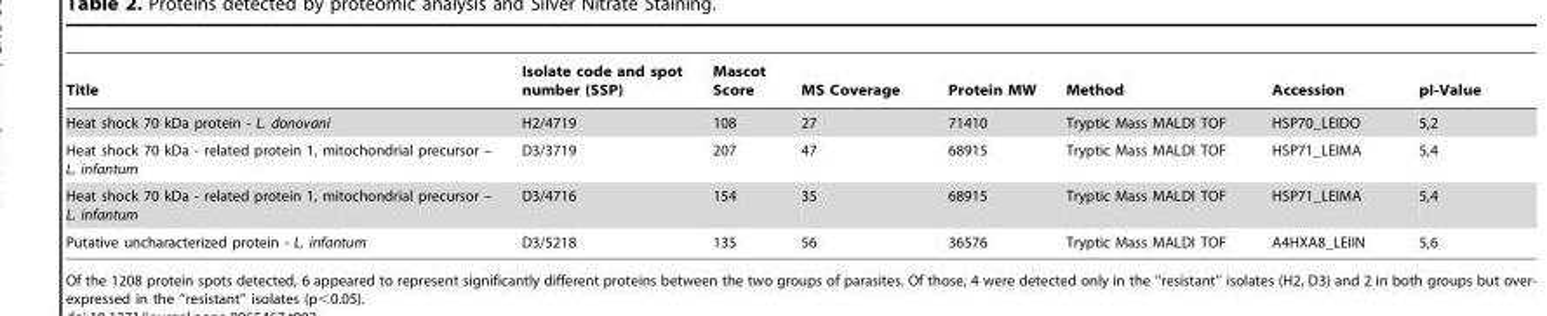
<table><thead><tr><td>Title</td><td>Isolate code and spot number (SSP)</td><td>Mascot Score</td><td>MS Coverage</td><td>Protein MW</td><td>Method</td><td>Accession</td><td>pI-Value</td></tr></thead><tbody><tr><td>Heat shock 70 kDa protein - L. donovani</td><td>H2/4719</td><td>108</td><td>27</td><td>71410</td><td>Tryptic Mass MALDI TOF</td><td>HSP70_LEIDO</td><td>5,2</td></tr><tr><td>Heat shock 70 kDa - related protein 1, mitochondrial precursor – L. infantum</td><td>D3/3719</td><td>207</td><td>47</td><td>68915</td><td>Tryptic Mass MALDI TOF</td><td>HSP71_LEIMA</td><td>5,4</td></tr><tr><td>Heat shock 70 kDa - related protein 1, mitochondrial precursor – L. infantum</td><td>D3/4716</td><td>154</td><td>35</td><td>68915</td><td>Tryptic Mass MALDI TOF</td><td>HSP71_LEIMA</td><td>5,4</td></tr><tr><td>Putative uncharacterized protein - L. infantum</td><td>D3/5218</td><td>135</td><td>56</td><td>36576</td><td>Tryptic Mass MALDI TOF</td><td>A4HXA8_LEIIN</td><td>5,6</td></tr></tbody></table>